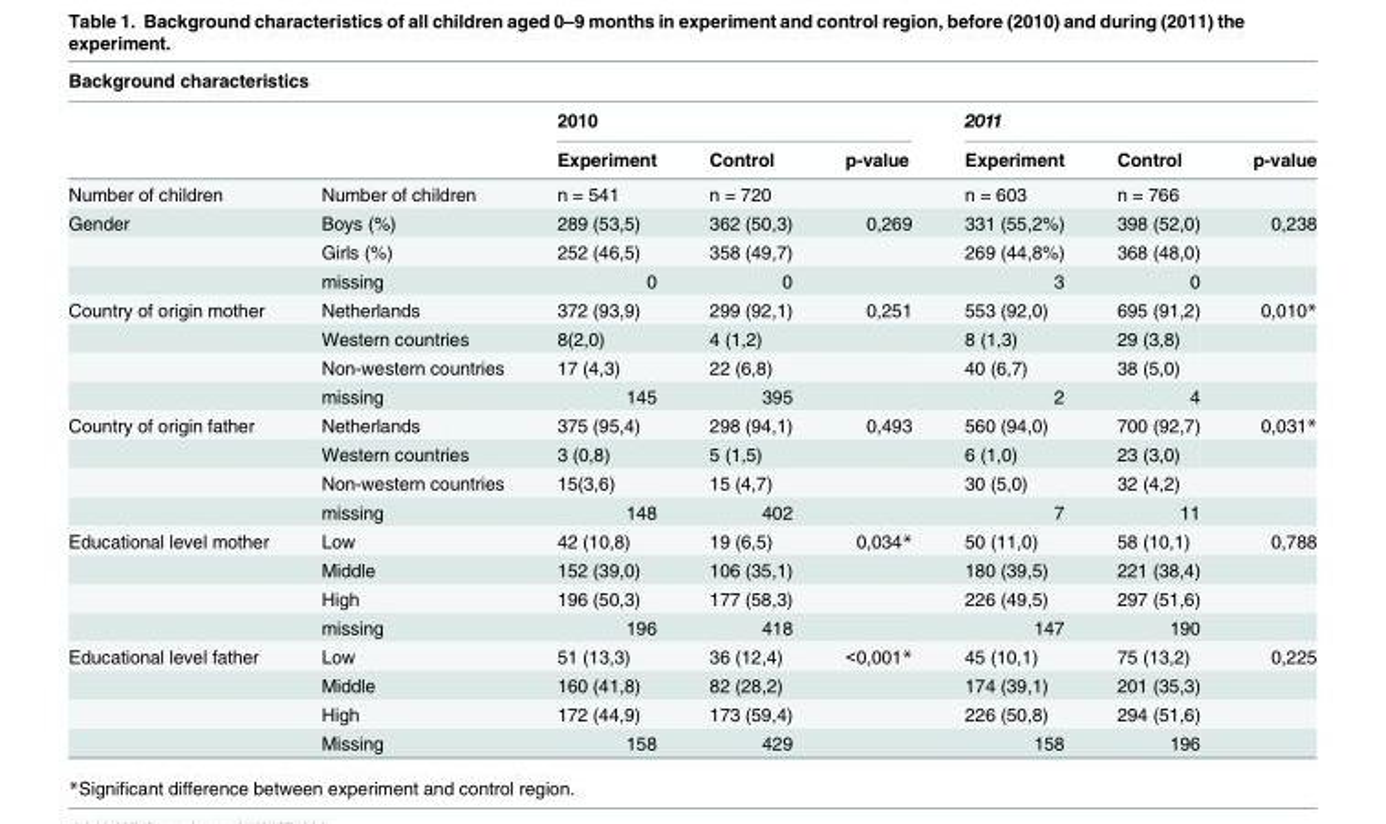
<table><thead><tr><td colspan="8">Background characteristics</td></tr><tr><td rowspan="2"></td><td rowspan="2"></td><td colspan="3">2010</td><td colspan="3">2011</td></tr><tr><td>Experiment</td><td>Control</td><td>p-value</td><td>Experiment</td><td>Control</td><td>p-value</td></tr></thead><tbody><tr><td>Number of children</td><td>Number of children</td><td>n = 541</td><td>n = 720</td><td></td><td>n = 603</td><td>n = 766</td><td></td></tr><tr><td rowspan="3">Gender</td><td>Boys (%)</td><td>289 (53,5)</td><td>362 (50,3)</td><td>0,269</td><td>331 (55,2%)</td><td>398 (52,0)</td><td>0,238</td></tr><tr><td>Girls (%)</td><td>252 (46,5)</td><td>358 (49,7)</td><td></td><td>269 (44,8%)</td><td>368 (48,0)</td><td></td></tr><tr><td>missing</td><td>0</td><td>0</td><td></td><td>3</td><td>0</td><td></td></tr><tr><td rowspan="4">Country of origin mother</td><td>Netherlands</td><td>372 (93,9)</td><td>299 (92,1)</td><td>0,251</td><td>553 (92,0)</td><td>695 (91,2)</td><td>0,010*</td></tr><tr><td>Western countries</td><td>8(2,0)</td><td>4 (1,2)</td><td></td><td>8 (1,3)</td><td>29 (3,8)</td><td></td></tr><tr><td>Non-western countries</td><td>17 (4,3)</td><td>22 (6,8)</td><td></td><td>40 (6,7)</td><td>38 (5,0)</td><td></td></tr><tr><td>missing</td><td>145</td><td>395</td><td></td><td>2</td><td>4</td><td></td></tr><tr><td rowspan="4">Country of origin father</td><td>Netherlands</td><td>375 (95,4)</td><td>298 (94,1)</td><td>0,493</td><td>560 (94,0)</td><td>700 (92,7)</td><td>0,031*</td></tr><tr><td>Western countries</td><td>3 (0,8)</td><td>5 (1,5)</td><td></td><td>6 (1,0)</td><td>23 (3,0)</td><td></td></tr><tr><td>Non-western countries</td><td>15(3,6)</td><td>15 (4,7)</td><td></td><td>30 (5,0)</td><td>32 (4,2)</td><td></td></tr><tr><td>missing</td><td>148</td><td>402</td><td></td><td>7</td><td>11</td><td></td></tr><tr><td rowspan="4">Educational level mother</td><td>Low</td><td>42 (10,8)</td><td>19 (6,5)</td><td>0,034*</td><td>50 (11,0)</td><td>58 (10,1)</td><td>0,788</td></tr><tr><td>Middle</td><td>152 (39,0)</td><td>106 (35,1)</td><td></td><td>180 (39,5)</td><td>221 (38,4)</td><td></td></tr><tr><td>High</td><td>196 (50,3)</td><td>177 (58,3)</td><td></td><td>226 (49,5)</td><td>297 (51,6)</td><td></td></tr><tr><td>missing</td><td>196</td><td>418</td><td></td><td>147</td><td>190</td><td></td></tr><tr><td rowspan="4">Educational level father</td><td>Low</td><td>51 (13,3)</td><td>36 (12,4)</td><td>&lt;0,001*</td><td>45 (10,1)</td><td>75 (13,2)</td><td>0,225</td></tr><tr><td>Middle</td><td>160 (41,8)</td><td>82 (28,2)</td><td></td><td>174 (39,1)</td><td>201 (35,3)</td><td></td></tr><tr><td>High</td><td>172 (44,9)</td><td>173 (59,4)</td><td></td><td>226 (50,8)</td><td>294 (51,6)</td><td></td></tr><tr><td>Missing</td><td>158</td><td>429</td><td></td><td>158</td><td>196</td><td></td></tr></tbody></table>